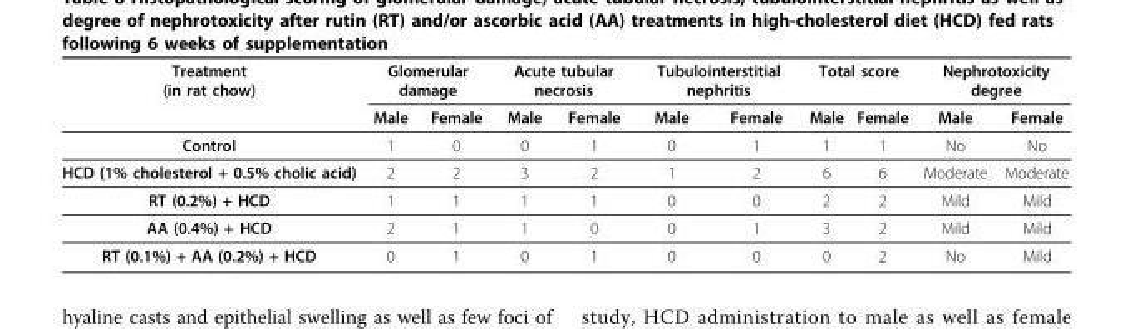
<table><thead><tr><td rowspan="2">Treatment (in rat chow)</td><td colspan="2">Glomerular damage</td><td colspan="2">Acute tubular necrosis</td><td colspan="2">Tubulointerstitial nephritis</td><td colspan="2">Total score</td><td colspan="2">Nephrotoxicity degree</td></tr><tr><td>Male</td><td>Female</td><td>Male</td><td>Female</td><td>Male</td><td>Female</td><td>Male</td><td>Female</td><td>Male</td><td>Female</td></tr></thead><tbody><tr><td>Control</td><td>1</td><td>0</td><td>0</td><td>1</td><td>0</td><td>1</td><td>1</td><td>1</td><td>No</td><td>No</td></tr><tr><td>HCD (1% cholesterol + 0.5% cholic acid)</td><td>2</td><td>2</td><td>3</td><td>2</td><td>1</td><td>2</td><td>6</td><td>6</td><td>Moderate</td><td>Moderate</td></tr><tr><td>RT (0.2%) + HCD</td><td>1</td><td>1</td><td>1</td><td>1</td><td>0</td><td>0</td><td>2</td><td>2</td><td>Mild</td><td>Mild</td></tr><tr><td>AA (0.4%) + HCD</td><td>2</td><td>1</td><td>1</td><td>0</td><td>0</td><td>1</td><td>3</td><td>2</td><td>Mild</td><td>Mild</td></tr><tr><td>RT (0.1%) + AA (0.2%) + HCD</td><td>0</td><td>1</td><td>0</td><td>1</td><td>0</td><td>0</td><td>0</td><td>2</td><td>No</td><td>Mild</td></tr></tbody></table>